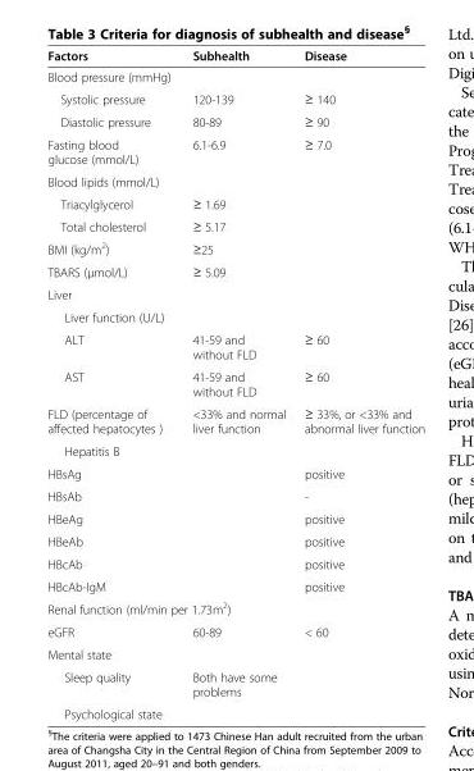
<table><thead><tr><td>Factors</td><td>Subhealth</td><td>Disease</td></tr></thead><tbody><tr><td colspan="3">Blood pressure (mmHg)</td></tr><tr><td>Systolic pressure</td><td>120-139</td><td>≥ 140</td></tr><tr><td>Diastolic pressure</td><td>80-89</td><td>≥ 90</td></tr><tr><td>Fasting blood glucose (mmol/L)</td><td>6.1-6.9</td><td>≥ 7.0</td></tr><tr><td colspan="3">Blood lipids (mmol/L)</td></tr><tr><td>Triacylglycerol</td><td>≥ 1.69</td><td></td></tr><tr><td>Total cholesterol</td><td>≥ 5.17</td><td></td></tr><tr><td>BMI (kg/m<sup>2</sup>)</td><td>≥25</td><td></td></tr><tr><td>TBARS (μmol/L)</td><td>≥ 5.09</td><td></td></tr><tr><td colspan="3">Liver</td></tr><tr><td colspan="3">Liver function (U/L)</td></tr><tr><td>ALT</td><td>41-59 and without FLD</td><td>≥ 60</td></tr><tr><td>AST</td><td>41-59 and without FLD</td><td>≥ 60</td></tr><tr><td>FLD (percentage of affected hepatocytes )</td><td>&lt;33% and normal liver function</td><td>≥ 33%, or &lt;33% and abnormal liver function</td></tr><tr><td colspan="3">Hepatitis B</td></tr><tr><td>HBsAg</td><td></td><td>positive</td></tr><tr><td>HBsAb</td><td></td><td>-</td></tr><tr><td>HBeAg</td><td></td><td>positive</td></tr><tr><td>HBeAb</td><td></td><td>positive</td></tr><tr><td>HBcAb</td><td></td><td>positive</td></tr><tr><td>HBcAb-IgM</td><td></td><td>positive</td></tr><tr><td colspan="3">Renal function (ml/min per 1.73m<sup>2</sup>)</td></tr><tr><td>eGFR</td><td>60-89</td><td>&lt; 60</td></tr><tr><td colspan="3">Mental state</td></tr><tr><td>Sleep quality</td><td>Both have some problems</td><td></td></tr><tr><td>Psychological state</td><td></td><td></td></tr></tbody></table>